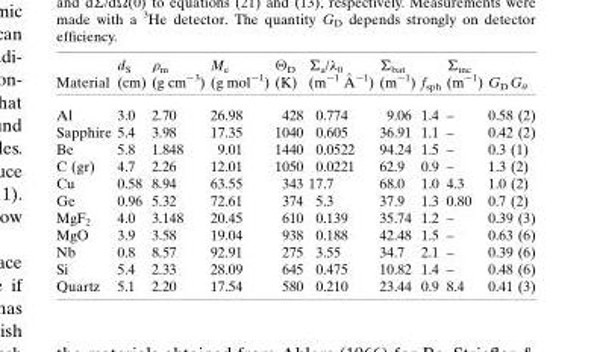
<table><thead><tr><td>Material</td><td>d<sub>S</sub> (cm)</td><td>�m (g cm�3)</td><td>Me (g mol�1)</td><td>�D (K)</td><td>�a/�0 (m�1 A˚ �1)</td><td>�bat (m�1)</td><td>f<sub>sph</sub></td><td>�inc (m�1)</td><td>GDG�</td></tr></thead><tbody><tr><td>Al</td><td>3.0</td><td>2.70</td><td>26.98</td><td>428</td><td>0.774</td><td>9.06</td><td>1.4</td><td>–</td><td>0.58 (2)</td></tr><tr><td>Sapphire</td><td>5.4</td><td>3.98</td><td>17.35</td><td>1040</td><td>0.605</td><td>36.91</td><td>1.1</td><td>–</td><td>0.42 (2)</td></tr><tr><td>Be</td><td>5.8</td><td>1.848</td><td>9.01</td><td>1440</td><td>0.0522</td><td>94.24</td><td>1.5</td><td>–</td><td>0.3 (1)</td></tr><tr><td>C (gr)</td><td>4.7</td><td>2.26</td><td>12.01</td><td>1050</td><td>0.0221</td><td>62.9</td><td>0.9</td><td>–</td><td>1.3 (2)</td></tr><tr><td>Cu</td><td>0.58</td><td>8.94</td><td>63.55</td><td>343</td><td>17.7</td><td>68.0</td><td>1.0</td><td>4.3</td><td>1.0 (2)</td></tr><tr><td>Ge</td><td>0.96</td><td>5.32</td><td>72.61</td><td>374</td><td>5.3</td><td>37.9</td><td>1.3</td><td>0.80</td><td>0.7 (2)</td></tr><tr><td>MgF<sub>2</sub></td><td>4.0</td><td>3.148</td><td>20.45</td><td>610</td><td>0.139</td><td>35.74</td><td>1.2</td><td>–</td><td>0.39 (3)</td></tr><tr><td>MgO</td><td>3.9</td><td>3.58</td><td>19.04</td><td>938</td><td>0.188</td><td>42.48</td><td>1.5</td><td>–</td><td>0.63 (6)</td></tr><tr><td>Nb</td><td>0.8</td><td>8.57</td><td>92.91</td><td>275</td><td>3.55</td><td>34.7</td><td>2.1</td><td>–</td><td>0.39 (6)</td></tr><tr><td>Si</td><td>5.4</td><td>2.33</td><td>28.09</td><td>645</td><td>0.475</td><td>10.82</td><td>1.4</td><td>–</td><td>0.48 (6)</td></tr><tr><td>Quartz</td><td>5.1</td><td>2.20</td><td>17.54</td><td>580</td><td>0.210</td><td>23.44</td><td>0.9</td><td>8.4</td><td>0.41 (3)</td></tr></tbody></table>